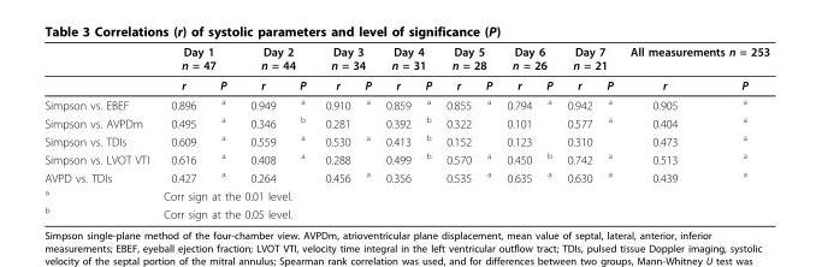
<table><thead><tr><td rowspan="2"></td><td colspan="2">Day 1 n = 47</td><td colspan="2">Day 2 n = 44</td><td colspan="2">Day 3 n = 34</td><td colspan="2">Day 4 n = 31</td><td colspan="2">Day 5 n = 28</td><td colspan="2">Day 6 n = 26</td><td colspan="2">Day 7 n = 21</td><td colspan="2">All measurements n = 253</td></tr><tr><td>r</td><td>P</td><td>r</td><td>P</td><td>r</td><td>P</td><td>r</td><td>P</td><td>r</td><td>P</td><td>r</td><td>P</td><td>r</td><td>P</td><td>r</td><td>P</td></tr></thead><tbody><tr><td>Simpson vs. EBEF</td><td>0.896</td><td><sup>a</sup></td><td>0.949</td><td><sup>a</sup></td><td>0.910</td><td><sup>a</sup></td><td>0.859</td><td><sup>a</sup></td><td>0.855</td><td><sup>a</sup></td><td>0.794</td><td><sup>a</sup></td><td>0.942</td><td><sup>a</sup></td><td>0.905</td><td><sup>a</sup></td></tr><tr><td>Simpson vs. AVPDm</td><td>0.495</td><td><sup>a</sup></td><td>0.346</td><td><sup>b</sup></td><td>0.281</td><td></td><td>0.392</td><td><sup>b</sup></td><td>0.322</td><td></td><td>0.101</td><td></td><td>0.577</td><td><sup>a</sup></td><td>0.404</td><td><sup>a</sup></td></tr><tr><td>Simpson vs. TDIs</td><td>0.609</td><td><sup>a</sup></td><td>0.559</td><td><sup>a</sup></td><td>0.530</td><td><sup>a</sup></td><td>0.413</td><td><sup>b</sup></td><td>0.152</td><td></td><td>0.123</td><td></td><td>0.310</td><td></td><td>0.473</td><td><sup>a</sup></td></tr><tr><td>Simpson vs. LVOT VTI</td><td>0.616</td><td><sup>a</sup></td><td>0.408</td><td><sup>a</sup></td><td>0.288</td><td></td><td>0.499</td><td><sup>b</sup></td><td>0.570</td><td><sup>a</sup></td><td>0.450</td><td><sup>b</sup></td><td>0.742</td><td><sup>a</sup></td><td>0.513</td><td><sup>a</sup></td></tr><tr><td>AVPD vs. TDIs</td><td>0.427</td><td><sup>a</sup></td><td>0.264</td><td></td><td>0.456</td><td><sup>a</sup></td><td>0.356</td><td></td><td>0.535</td><td><sup>a</sup></td><td>0.635</td><td><sup>a</sup></td><td>0.630</td><td><sup>a</sup></td><td>0.439</td><td><sup>a</sup></td></tr><tr><td><sup>a</sup></td><td colspan="4">Corr sign at the 0.01 level.</td><td></td><td></td><td></td><td></td><td></td><td></td><td></td><td></td><td></td><td></td><td></td><td></td></tr><tr><td><sup>b</sup></td><td colspan="4">Corr sign at the 0.05 level.</td><td></td><td></td><td></td><td></td><td></td><td></td><td></td><td></td><td></td><td></td><td></td><td></td></tr></tbody></table>